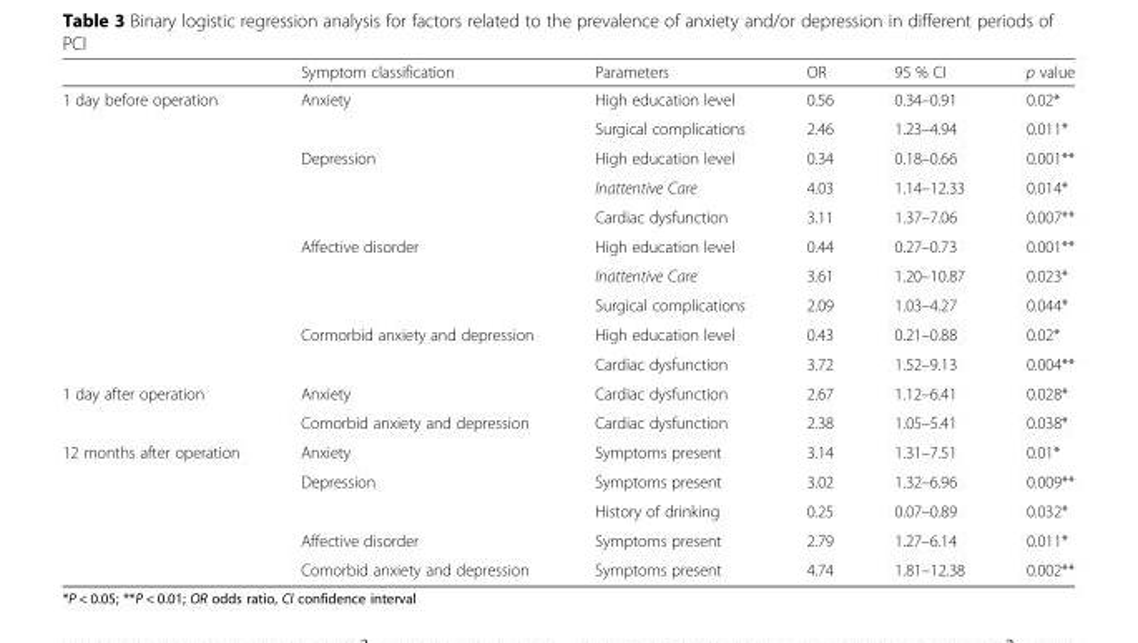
<table><thead><tr><td></td><td>Symptom classification</td><td>Parameters</td><td>OR</td><td>95 % CI</td><td>p value</td></tr></thead><tbody><tr><td rowspan="10">1 day before operation</td><td rowspan="2">Anxiety</td><td>High education level</td><td>0.56</td><td>0.34–0.91</td><td>0.02*</td></tr><tr><td>Surgical complications</td><td>2.46</td><td>1.23–4.94</td><td>0.011*</td></tr><tr><td rowspan="3">Depression</td><td>High education level</td><td>0.34</td><td>0.18–0.66</td><td>0.001**</td></tr><tr><td>Inattentive Care</td><td>4.03</td><td>1.14–12.33</td><td>0.014*</td></tr><tr><td>Cardiac dysfunction</td><td>3.11</td><td>1.37–7.06</td><td>0.007**</td></tr><tr><td rowspan="3">Affective disorder</td><td>High education level</td><td>0.44</td><td>0.27–0.73</td><td>0.001**</td></tr><tr><td>Inattentive Care</td><td>3.61</td><td>1.20–10.87</td><td>0.023*</td></tr><tr><td>Surgical complications</td><td>2.09</td><td>1.03–4.27</td><td>0.044*</td></tr><tr><td rowspan="2">Cormorbid anxiety and depression</td><td>High education level</td><td>0.43</td><td>0.21–0.88</td><td>0.02*</td></tr><tr><td>Cardiac dysfunction</td><td>3.72</td><td>1.52–9.13</td><td>0.004**</td></tr><tr><td rowspan="2">1 day after operation</td><td>Anxiety</td><td>Cardiac dysfunction</td><td>2.67</td><td>1.12–6.41</td><td>0.028*</td></tr><tr><td>Comorbid anxiety and depression</td><td>Cardiac dysfunction</td><td>2.38</td><td>1.05–5.41</td><td>0.038*</td></tr><tr><td rowspan="5">12 months after operation</td><td>Anxiety</td><td>Symptoms present</td><td>3.14</td><td>1.31–7.51</td><td>0.01*</td></tr><tr><td rowspan="2">Depression</td><td>Symptoms present</td><td>3.02</td><td>1.32–6.96</td><td>0.009**</td></tr><tr><td>History of drinking</td><td>0.25</td><td>0.07–0.89</td><td>0.032*</td></tr><tr><td>Affective disorder</td><td>Symptoms present</td><td>2.79</td><td>1.27–6.14</td><td>0.011*</td></tr><tr><td>Comorbid anxiety and depression</td><td>Symptoms present</td><td>4.74</td><td>1.81–12.38</td><td>0.002**</td></tr></tbody></table>